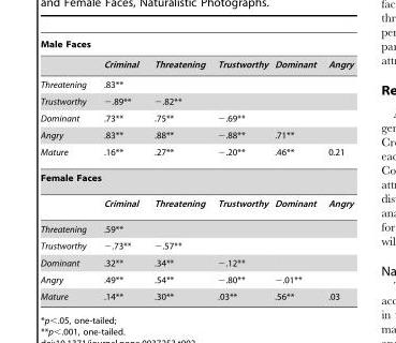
<table><thead><tr><td colspan="6">Male Faces</td></tr><tr><td></td><td>Criminal</td><td>Threatening</td><td>Trustworthy</td><td>Dominant</td><td>Angry</td></tr></thead><tbody><tr><td>Threatening</td><td colspan="5">.83**</td></tr><tr><td>Trustworthy</td><td>−.89**</td><td colspan="4">−.82**</td></tr><tr><td>Dominant</td><td>.73**</td><td>.75**</td><td colspan="3">−.69**</td></tr><tr><td>Angry</td><td>.83**</td><td>.88**</td><td>−.88**</td><td colspan="2">.71**</td></tr><tr><td>Mature</td><td>.16**</td><td>.27**</td><td>−.20**</td><td>.46**</td><td>0.21</td></tr><tr><td colspan="6">Female Faces</td></tr><tr><td></td><td>Criminal</td><td>Threatening</td><td>Trustworthy</td><td>Dominant</td><td>Angry</td></tr><tr><td>Threatening</td><td colspan="5">.59**</td></tr><tr><td>Trustworthy</td><td>−.73**</td><td>−.57**</td><td colspan="3"></td></tr><tr><td>Dominant</td><td>.32**</td><td>.34**</td><td>−.12**</td><td colspan="2"></td></tr><tr><td>Angry</td><td>.49**</td><td>.54**</td><td>−.80**</td><td colspan="2">−.01**</td></tr><tr><td>Mature</td><td>.14**</td><td>.30**</td><td>.03**</td><td>.56**</td><td>.03</td></tr></tbody></table>